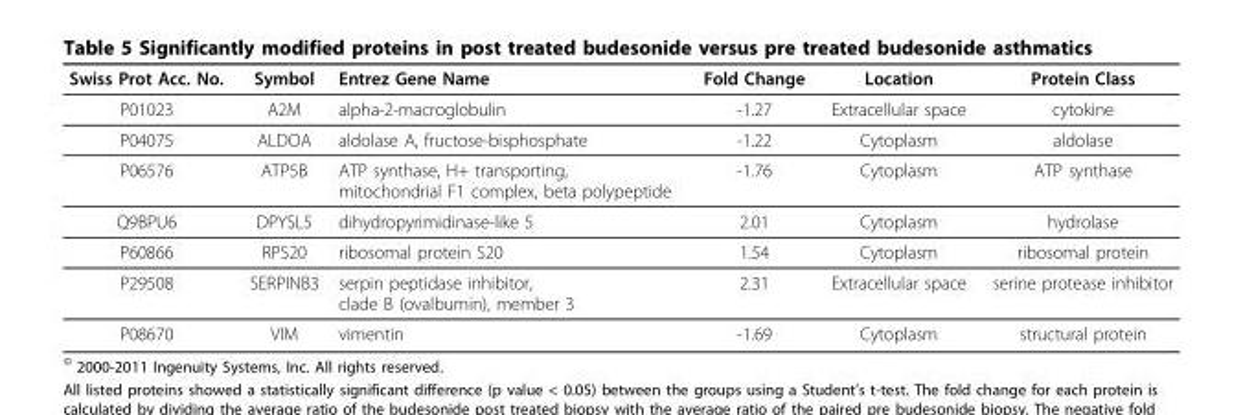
<table><thead><tr><td>Swiss Prot Acc. No.</td><td>Symbol</td><td>Entrez Gene Name</td><td>Fold Change</td><td>Location</td><td>Protein Class</td></tr></thead><tbody><tr><td>P01023</td><td>A2M</td><td>alpha-2-macroglobulin</td><td>-1.27</td><td>Extracellular space</td><td>cytokine</td></tr><tr><td>P04075</td><td>ALDOA</td><td>aldolase A, fructose-bisphosphate</td><td>-1.22</td><td>Cytoplasm</td><td>aldolase</td></tr><tr><td>P06576</td><td>ATP5B</td><td>ATP synthase, H+ transporting, mitochondrial F1 complex, beta polypeptide</td><td>-1.76</td><td>Cytoplasm</td><td>ATP synthase</td></tr><tr><td>Q9BPU6</td><td>DPYSL5</td><td>dihydropyrimidinase-like 5</td><td>2.01</td><td>Cytoplasm</td><td>hydrolase</td></tr><tr><td>P60866</td><td>RPS20</td><td>ribosomal protein S20</td><td>1.54</td><td>Cytoplasm</td><td>ribosomal protein</td></tr><tr><td>P29508</td><td>SERPINB3</td><td>serpin peptidase inhibitor, clade B (ovalbumin), member 3</td><td>2.31</td><td>Extracellular space</td><td>serine protease inhibitor</td></tr><tr><td>P08670</td><td>VIM</td><td>vimentin</td><td>-1.69</td><td>Cytoplasm</td><td>structural protein</td></tr></tbody></table>